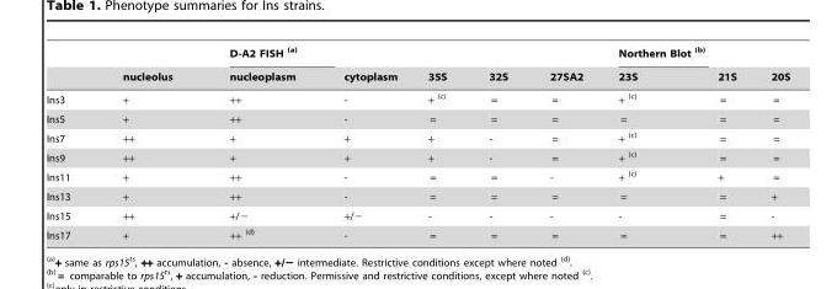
<table><thead><tr><td rowspan="2"></td><td rowspan="2">nucleolus</td><td rowspan="2">D-A2 FISH (a) nucleoplasm</td><td rowspan="2">cytoplasm</td><td rowspan="2">35S</td><td rowspan="2">32S</td><td rowspan="2">27SA2</td><td rowspan="2">Northern Blot (b) 23S</td><td rowspan="2">21S</td><td rowspan="2">20S</td></tr><tr></tr></thead><tbody><tr><td>Ins3</td><td>+</td><td>++</td><td>-</td><td>+ (c)</td><td>=</td><td>=</td><td>+ (c)</td><td>=</td><td>=</td></tr><tr><td>Ins5</td><td>+</td><td>++</td><td>-</td><td>=</td><td>=</td><td>=</td><td>=</td><td>=</td><td>=</td></tr><tr><td>Ins7</td><td>++</td><td>+</td><td>+</td><td>+</td><td>-</td><td>=</td><td>+ (c)</td><td>=</td><td>=</td></tr><tr><td>Ins9</td><td>++</td><td>+</td><td>+</td><td>+</td><td>-</td><td>=</td><td>+ (c)</td><td>=</td><td>=</td></tr><tr><td>Ins11</td><td>+</td><td>++</td><td>-</td><td>=</td><td>=</td><td>-</td><td>+ (c)</td><td>+</td><td>=</td></tr><tr><td>Ins13</td><td>+</td><td>++</td><td>-</td><td>=</td><td>=</td><td>=</td><td>=</td><td>=</td><td>+</td></tr><tr><td>Ins15</td><td>++</td><td>+/−</td><td>+/−</td><td>-</td><td>-</td><td>-</td><td>-</td><td>=</td><td>-</td></tr><tr><td>Ins17</td><td>+</td><td>++ (d)</td><td>-</td><td>=</td><td>=</td><td>=</td><td>=</td><td>=</td><td>++</td></tr></tbody></table>